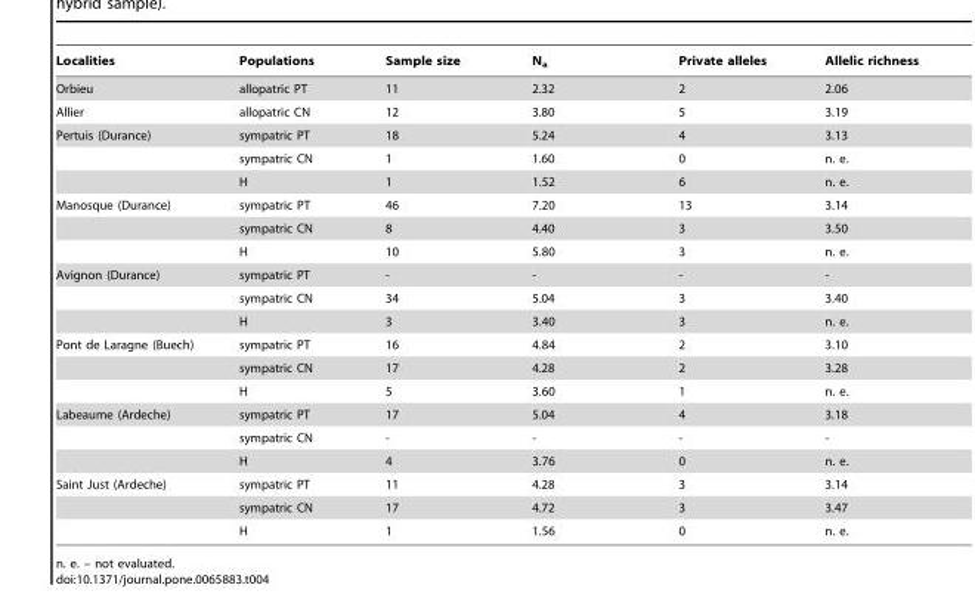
<table><thead><tr><td>Localities</td><td>Populations</td><td>Sample size</td><td>N<sub>a</sub></td><td>Private alleles</td><td>Allelic richness</td></tr></thead><tbody><tr><td>Orbieu</td><td>allopatric PT</td><td>11</td><td>2.32</td><td>2</td><td>2.06</td></tr><tr><td>Allier</td><td>allopatric CN</td><td>12</td><td>3.80</td><td>5</td><td>3.19</td></tr><tr><td rowspan="3">Pertuis (Durance)</td><td>sympatric PT</td><td>18</td><td>5.24</td><td>4</td><td>3.13</td></tr><tr><td>sympatric CN</td><td>1</td><td>1.60</td><td>0</td><td>n. e.</td></tr><tr><td>H</td><td>1</td><td>1.52</td><td>6</td><td>n. e.</td></tr><tr><td rowspan="3">Manosque (Durance)</td><td>sympatric PT</td><td>46</td><td>7.20</td><td>13</td><td>3.14</td></tr><tr><td>sympatric CN</td><td>8</td><td>4.40</td><td>3</td><td>3.50</td></tr><tr><td>H</td><td>10</td><td>5.80</td><td>3</td><td>n. e.</td></tr><tr><td rowspan="3">Avignon (Durance)</td><td>sympatric PT</td><td>-</td><td>-</td><td>-</td><td>-</td></tr><tr><td>sympatric CN</td><td>34</td><td>5.04</td><td>3</td><td>3.40</td></tr><tr><td>H</td><td>3</td><td>3.40</td><td>3</td><td>n. e.</td></tr><tr><td rowspan="3">Pont de Laragne (Buech)</td><td>sympatric PT</td><td>16</td><td>4.84</td><td>2</td><td>3.10</td></tr><tr><td>sympatric CN</td><td>17</td><td>4.28</td><td>2</td><td>3.28</td></tr><tr><td>H</td><td>5</td><td>3.60</td><td>1</td><td>n. e.</td></tr><tr><td rowspan="3">Labeaume (Ardeche)</td><td>sympatric PT</td><td>17</td><td>5.04</td><td>4</td><td>3.18</td></tr><tr><td>sympatric CN</td><td>-</td><td>-</td><td>-</td><td>-</td></tr><tr><td>H</td><td>4</td><td>3.76</td><td>0</td><td>n. e.</td></tr><tr><td rowspan="3">Saint Just (Ardeche)</td><td>sympatric PT</td><td>11</td><td>4.28</td><td>3</td><td>3.14</td></tr><tr><td>sympatric CN</td><td>17</td><td>4.72</td><td>3</td><td>3.47</td></tr><tr><td>H</td><td>1</td><td>1.56</td><td>0</td><td>n. e.</td></tr></tbody></table>